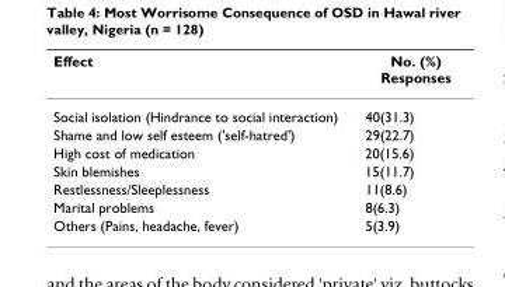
<table><thead><tr><td>Effect</td><td>No. (%) Responses</td></tr></thead><tbody><tr><td>Social isolation (Hindrance to social interaction)</td><td>40(31.3)</td></tr><tr><td>Shame and low self esteem (&#x27;self-hatred&#x27;)</td><td>29(22.7)</td></tr><tr><td>High cost of medication</td><td>20(15.6)</td></tr><tr><td>Skin blemishes</td><td>15(11.7)</td></tr><tr><td>Restlessness/Sleeplessness</td><td>11(8.6)</td></tr><tr><td>Marital problems</td><td>8(6.3)</td></tr><tr><td>Others (Pains, headache, fever)</td><td>5(3.9)</td></tr></tbody></table>